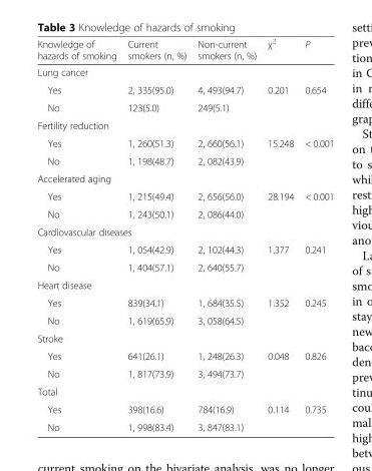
<table><thead><tr><td>Knowledge of hazards of smoking</td><td>Current smokers (n, %)</td><td>Non-current smokers (n, %)</td><td>χ<sup>2</sup></td><td>P</td></tr></thead><tbody><tr><td colspan="5">Lung cancer</td></tr><tr><td>Yes</td><td>2, 335(95.0)</td><td>4, 493(94.7)</td><td>0.201</td><td>0.654</td></tr><tr><td>No</td><td>123(5.0)</td><td>249(5.1)</td><td></td><td></td></tr><tr><td colspan="5">Fertility reduction</td></tr><tr><td>Yes</td><td>1, 260(51.3)</td><td>2, 660(56.1)</td><td>15.248</td><td>&lt; 0.001</td></tr><tr><td>No</td><td>1, 198(48.7)</td><td>2, 082(43.9)</td><td></td><td></td></tr><tr><td colspan="5">Accelerated aging</td></tr><tr><td>Yes</td><td>1, 215(49.4)</td><td>2, 656(56.0)</td><td>28.194</td><td>&lt; 0.001</td></tr><tr><td>No</td><td>1, 243(50.1)</td><td>2, 086(44.0)</td><td></td><td></td></tr><tr><td colspan="5">Cardiovascular diseases</td></tr><tr><td>Yes</td><td>1, 054(42.9)</td><td>2, 102(44.3)</td><td>1.377</td><td>0.241</td></tr><tr><td>No</td><td>1, 404(57.1)</td><td>2, 640(55.7)</td><td></td><td></td></tr><tr><td colspan="5">Heart disease</td></tr><tr><td>Yes</td><td>839(34.1)</td><td>1, 684(35.5)</td><td>1.352</td><td>0.245</td></tr><tr><td>No</td><td>1, 619(65.9)</td><td>3, 058(64.5)</td><td></td><td></td></tr><tr><td colspan="5">Stroke</td></tr><tr><td>Yes</td><td>641(26.1)</td><td>1, 248(26.3)</td><td>0.048</td><td>0.826</td></tr><tr><td>No</td><td>1, 817(73.9)</td><td>3, 494(73.7)</td><td></td><td></td></tr><tr><td colspan="5">Total</td></tr><tr><td>Yes</td><td>398(16.6)</td><td>784(16.9)</td><td>0.114</td><td>0.735</td></tr><tr><td>No</td><td>1, 998(83.4)</td><td>3, 847(83.1)</td><td></td><td></td></tr></tbody></table>